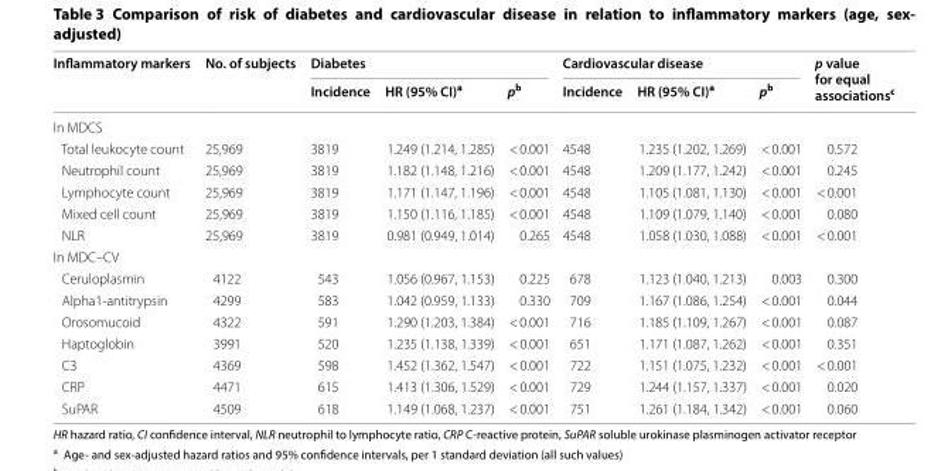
<table><thead><tr><td rowspan="2">Inflammatory markers</td><td rowspan="2">No. of subjects</td><td colspan="3">Diabetes</td><td colspan="3">Cardiovascular disease</td><td rowspan="2">p value for equal associations<sup>c</sup></td></tr><tr><td>Incidence</td><td>HR (95% CI)<sup>a</sup></td><td>p<sup>b</sup></td><td>Incidence</td><td>HR (95% CI)<sup>a</sup></td><td>p<sup>b</sup></td></tr></thead><tbody><tr><td colspan="9">In MDCS</td></tr><tr><td>Total leukocyte count</td><td>25,969</td><td>3819</td><td>1.249 (1.214, 1.285)</td><td>&lt; 0.001</td><td>4548</td><td>1.235 (1.202, 1.269)</td><td>&lt; 0.001</td><td>0.572</td></tr><tr><td>Neutrophil count</td><td>25,969</td><td>3819</td><td>1.182 (1.148, 1.216)</td><td>&lt; 0.001</td><td>4548</td><td>1.209 (1.177, 1.242)</td><td>&lt; 0.001</td><td>0.245</td></tr><tr><td>Lymphocyte count</td><td>25,969</td><td>3819</td><td>1.171 (1.147, 1.196)</td><td>&lt; 0.001</td><td>4548</td><td>1.105 (1.081, 1.130)</td><td>&lt; 0.001</td><td>&lt; 0.001</td></tr><tr><td>Mixed cell count</td><td>25,969</td><td>3819</td><td>1.150 (1.116, 1.185)</td><td>&lt; 0.001</td><td>4548</td><td>1.109 (1.079, 1.140)</td><td>&lt; 0.001</td><td>0.080</td></tr><tr><td>NLR</td><td>25,969</td><td>3819</td><td>0.981 (0.949, 1.014)</td><td>0.265</td><td>4548</td><td>1.058 (1.030, 1.088)</td><td>&lt; 0.001</td><td>&lt; 0.001</td></tr><tr><td colspan="9">In MDC–CV</td></tr><tr><td>Ceruloplasmin</td><td>4122</td><td>543</td><td>1.056 (0.967, 1.153)</td><td>0.225</td><td>678</td><td>1.123 (1.040, 1.213)</td><td>0.003</td><td>0.300</td></tr><tr><td>Alpha1-antitrypsin</td><td>4299</td><td>583</td><td>1.042 (0.959, 1.133)</td><td>0.330</td><td>709</td><td>1.167 (1.086, 1.254)</td><td>&lt; 0.001</td><td>0.044</td></tr><tr><td>Orosomucoid</td><td>4322</td><td>591</td><td>1.290 (1.203, 1.384)</td><td>&lt; 0.001</td><td>716</td><td>1.185 (1.109, 1.267)</td><td>&lt; 0.001</td><td>0.087</td></tr><tr><td>Haptoglobin</td><td>3991</td><td>520</td><td>1.235 (1.138, 1.339)</td><td>&lt; 0.001</td><td>651</td><td>1.171 (1.087, 1.262)</td><td>&lt; 0.001</td><td>0.351</td></tr><tr><td>C3</td><td>4369</td><td>598</td><td>1.452 (1.362, 1.547)</td><td>&lt; 0.001</td><td>722</td><td>1.151 (1.075, 1.232)</td><td>&lt; 0.001</td><td>&lt; 0.001</td></tr><tr><td>CRP</td><td>4471</td><td>615</td><td>1.413 (1.306, 1.529)</td><td>&lt; 0.001</td><td>729</td><td>1.244 (1.157, 1.337)</td><td>&lt; 0.001</td><td>0.020</td></tr><tr><td>SuPAR</td><td>4509</td><td>618</td><td>1.149 (1.068, 1.237)</td><td>&lt; 0.001</td><td>751</td><td>1.261 (1.184, 1.342)</td><td>&lt; 0.001</td><td>0.060</td></tr></tbody></table>